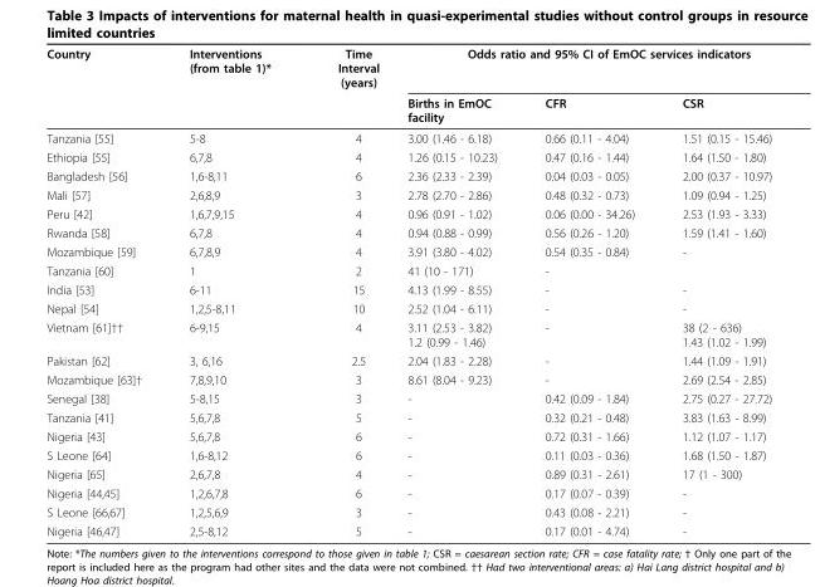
<table><thead><tr><td rowspan="2">Country</td><td rowspan="2">Interventions (from table 1)*</td><td rowspan="2">Time Interval (years)</td><td colspan="3">Odds ratio and 95% CI of EmOC services indicators</td></tr><tr><td>Births in EmOC facility</td><td>CFR</td><td>CSR</td></tr></thead><tbody><tr><td>Tanzania [55]</td><td>5-8</td><td>4</td><td>3.00 (1.46 - 6.18)</td><td>0.66 (0.11 - 4.04)</td><td>1.51 (0.15 - 15.46)</td></tr><tr><td>Ethiopia [55]</td><td>6,7,8</td><td>4</td><td>1.26 (0.15 - 10.23)</td><td>0.47 (0.16 - 1.44)</td><td>1.64 (1.50 - 1.80)</td></tr><tr><td>Bangladesh [56]</td><td>1,6-8,11</td><td>6</td><td>2.36 (2.33 - 2.39)</td><td>0.04 (0.03 - 0.05)</td><td>2.00 (0.37 - 10.97)</td></tr><tr><td>Mali [57]</td><td>2,6,8,9</td><td>3</td><td>2.78 (2.70 - 2.86)</td><td>0.48 (0.32 - 0.73)</td><td>1.09 (0.94 - 1.25)</td></tr><tr><td>Peru [42]</td><td>1,6,7,9,15</td><td>4</td><td>0.96 (0.91 - 1.02)</td><td>0.06 (0.00 - 34.26)</td><td>2.53 (1.93 - 3.33)</td></tr><tr><td>Rwanda [58]</td><td>6,7,8</td><td>4</td><td>0.94 (0.88 - 0.99)</td><td>0.56 (0.26 - 1.20)</td><td>1.59 (1.41 - 1.60)</td></tr><tr><td>Mozambique [59]</td><td>6,7,8,9</td><td>4</td><td>3.91 (3.80 - 4.02)</td><td>0.54 (0.35 - 0.84)</td><td>-</td></tr><tr><td>Tanzania [60]</td><td>1</td><td>2</td><td>41 (10 - 171)</td><td>-</td><td></td></tr><tr><td>India [53]</td><td>6-11</td><td>15</td><td>4.13 (1.99 - 8.55)</td><td>-</td><td>-</td></tr><tr><td>Nepal [54]</td><td>1,2,5-8,11</td><td>10</td><td>2.52 (1.04 - 6.11)</td><td>-</td><td>-</td></tr><tr><td>Vietnam [61]††</td><td>6-9,15</td><td>4</td><td>3.11 (2.53 - 3.82) 1.2 (0.99 - 1.46)</td><td>-</td><td>38 (2 - 636) 1.43 (1.02 - 1.99)</td></tr><tr><td>Pakistan [62]</td><td>3, 6,16</td><td>2.5</td><td>2.04 (1.83 - 2.28)</td><td>-</td><td>1.44 (1.09 - 1.91)</td></tr><tr><td>Mozambique [63]†</td><td>7,8,9,10</td><td>3</td><td>8.61 (8.04 - 9.23)</td><td>-</td><td>2.69 (2.54 - 2.85)</td></tr><tr><td>Senegal [38]</td><td>5-8,15</td><td>3</td><td>-</td><td>0.42 (0.09 - 1.84)</td><td>2.75 (0.27 - 27.72)</td></tr><tr><td>Tanzania [41]</td><td>5,6,7,8</td><td>5</td><td>-</td><td>0.32 (0.21 - 0.48)</td><td>3.83 (1.63 - 8.99)</td></tr><tr><td>Nigeria [43]</td><td>5,6,7,8</td><td>6</td><td>-</td><td>0.72 (0.31 - 1.66)</td><td>1.12 (1.07 - 1.17)</td></tr><tr><td>S Leone [64]</td><td>1,6-8,12</td><td>6</td><td>-</td><td>0.11 (0.03 - 0.36)</td><td>1.68 (1.50 - 1.87)</td></tr><tr><td>Nigeria [65]</td><td>2,6,7,8</td><td>4</td><td>-</td><td>0.89 (0.31 - 2.61)</td><td>17 (1 - 300)</td></tr><tr><td>Nigeria [44,45]</td><td>1,2,6,7,8</td><td>6</td><td>-</td><td>0.17 (0.07 - 0.39)</td><td>-</td></tr><tr><td>S Leone [66,67]</td><td>1,2,5,6,9</td><td>3</td><td>-</td><td>0.43 (0.08 - 2.21)</td><td>-</td></tr><tr><td>Nigeria [46,47]</td><td>2,5-8,12</td><td>5</td><td>-</td><td>0.17 (0.01 - 4.74)</td><td>-</td></tr></tbody></table>